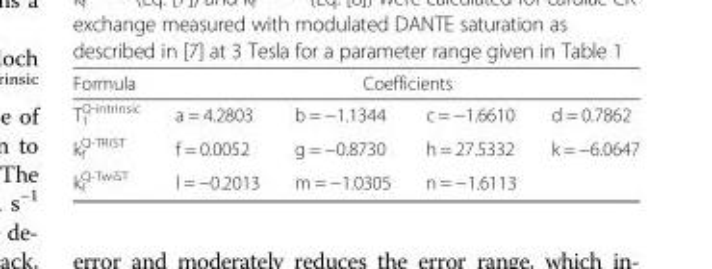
<table><thead><tr><td rowspan="2">Formula T<sub>1</sub> <sup>Q-intrinsic</sup></td><td colspan="4">Coefficients</td></tr><tr><td>a = 4.2803</td><td>b = −1.1344</td><td>c = −1.6610</td><td>d = 0.7862</td></tr></thead><tbody><tr><td>k<sub>f</sub> <sup>Q-TRiST</sup></td><td>f = 0.0052</td><td>g = −0.8730</td><td>h = 27.5332</td><td>k = −6.0647</td></tr><tr><td>k<sub>f</sub> <sup>Q-TwiST</sup></td><td>l = −0.2013</td><td>m = −1.0305</td><td>n = −1.6113</td><td></td></tr></tbody></table>